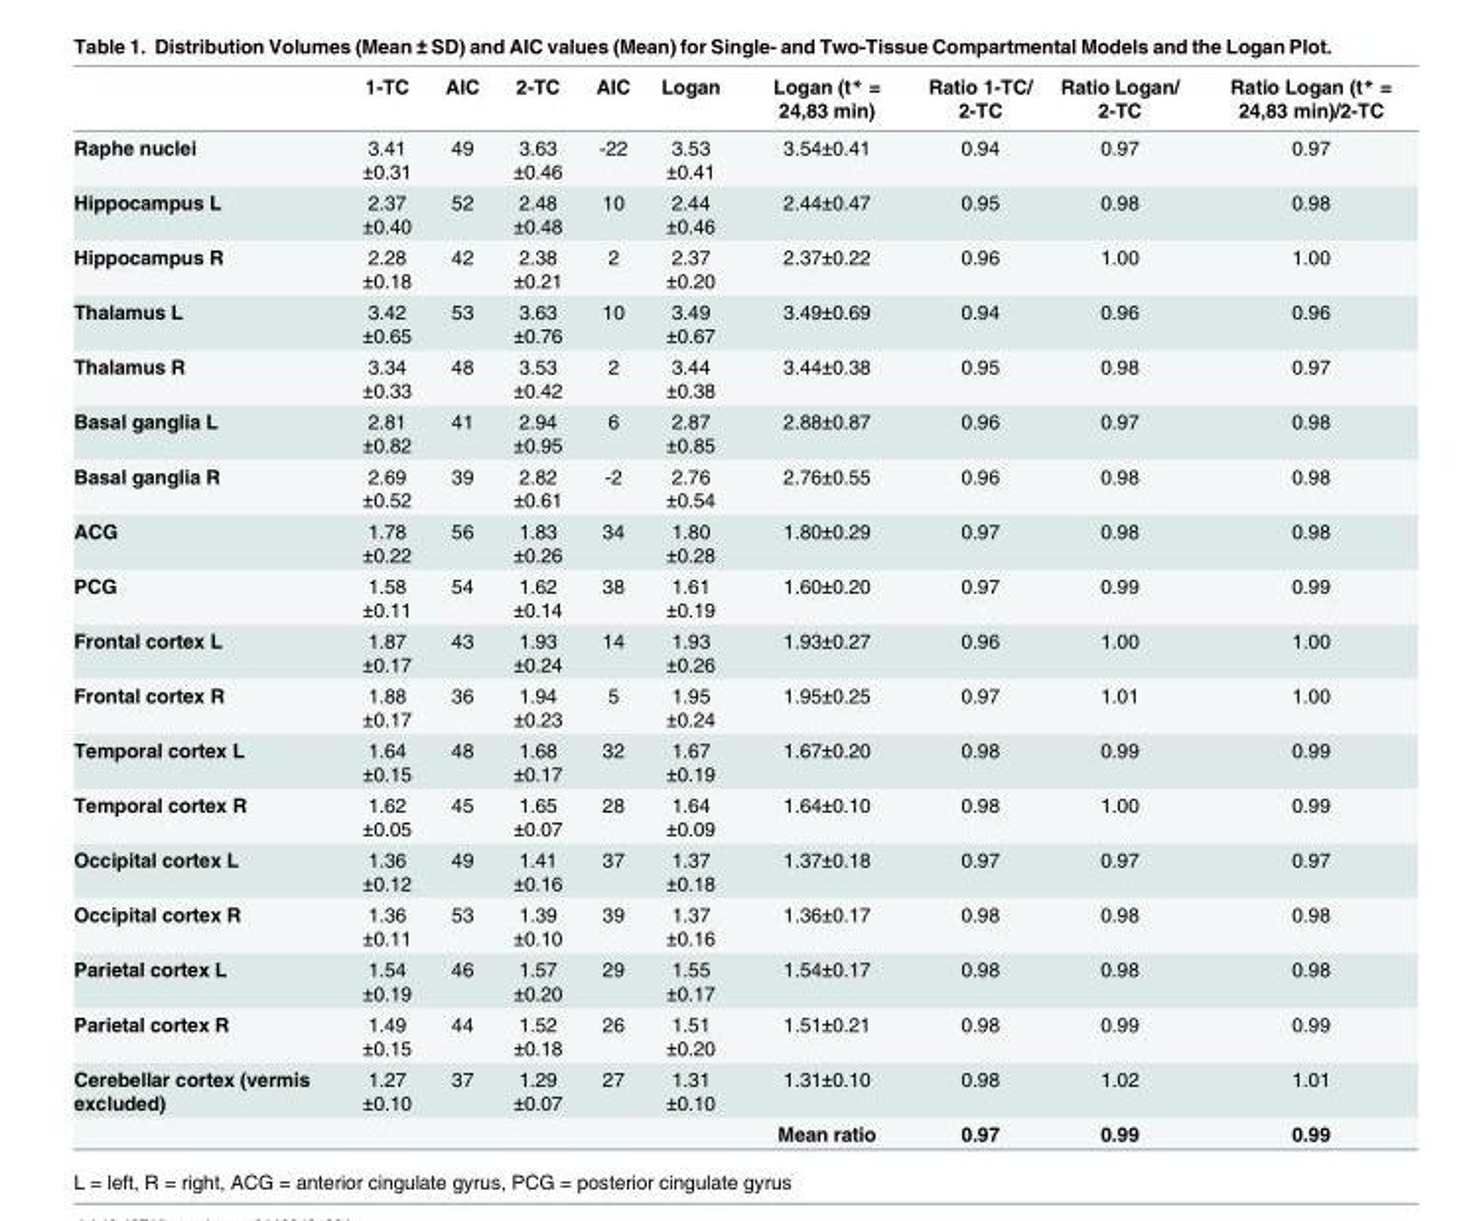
<table><thead><tr><td></td><td>1-TC</td><td>AIC</td><td>2-TC</td><td>AIC</td><td>Logan</td><td>Logan (t* = 24,83 min)</td><td>Ratio 1-TC/ 2-TC</td><td>Ratio Logan/ 2-TC</td><td>Ratio Logan (t* = 24,83 min)/2-TC</td></tr></thead><tbody><tr><td>Raphe nuclei</td><td>3.41 ±0.31</td><td>49</td><td>3.63 ±0.46</td><td>-22</td><td>3.53 ±0.41</td><td>3.54±0.41</td><td>0.94</td><td>0.97</td><td>0.97</td></tr><tr><td>Hippocampus L</td><td>2.37 ±0.40</td><td>52</td><td>2.48 ±0.48</td><td>10</td><td>2.44 ±0.46</td><td>2.44±0.47</td><td>0.95</td><td>0.98</td><td>0.98</td></tr><tr><td>Hippocampus R</td><td>2.28 ±0.18</td><td>42</td><td>2.38 ±0.21</td><td>2</td><td>2.37 ±0.20</td><td>2.37±0.22</td><td>0.96</td><td>1.00</td><td>1.00</td></tr><tr><td>Thalamus L</td><td>3.42 ±0.65</td><td>53</td><td>3.63 ±0.76</td><td>10</td><td>3.49 ±0.67</td><td>3.49±0.69</td><td>0.94</td><td>0.96</td><td>0.96</td></tr><tr><td>Thalamus R</td><td>3.34 ±0.33</td><td>48</td><td>3.53 ±0.42</td><td>2</td><td>3.44 ±0.38</td><td>3.44±0.38</td><td>0.95</td><td>0.98</td><td>0.97</td></tr><tr><td>Basal ganglia L</td><td>2.81 ±0.82</td><td>41</td><td>2.94 ±0.95</td><td>6</td><td>2.87 ±0.85</td><td>2.88±0.87</td><td>0.96</td><td>0.97</td><td>0.98</td></tr><tr><td>Basal ganglia R</td><td>2.69 ±0.52</td><td>39</td><td>2.82 ±0.61</td><td>-2</td><td>2.76 ±0.54</td><td>2.76±0.55</td><td>0.96</td><td>0.98</td><td>0.98</td></tr><tr><td>ACG</td><td>1.78 ±0.22</td><td>56</td><td>1.83 ±0.26</td><td>34</td><td>1.80 ±0.28</td><td>1.80±0.29</td><td>0.97</td><td>0.98</td><td>0.98</td></tr><tr><td>PCG</td><td>1.58 ±0.11</td><td>54</td><td>1.62 ±0.14</td><td>38</td><td>1.61 ±0.19</td><td>1.60±0.20</td><td>0.97</td><td>0.99</td><td>0.99</td></tr><tr><td>Frontal cortex L</td><td>1.87 ±0.17</td><td>43</td><td>1.93 ±0.24</td><td>14</td><td>1.93 ±0.26</td><td>1.93±0.27</td><td>0.96</td><td>1.00</td><td>1.00</td></tr><tr><td>Frontal cortex R</td><td>1.88 ±0.17</td><td>36</td><td>1.94 ±0.23</td><td>5</td><td>1.95 ±0.24</td><td>1.95±0.25</td><td>0.97</td><td>1.01</td><td>1.00</td></tr><tr><td>Temporal cortex L</td><td>1.64 ±0.15</td><td>48</td><td>1.68 ±0.17</td><td>32</td><td>1.67 ±0.19</td><td>1.67±0.20</td><td>0.98</td><td>0.99</td><td>0.99</td></tr><tr><td>Temporal cortex R</td><td>1.62 ±0.05</td><td>45</td><td>1.65 ±0.07</td><td>28</td><td>1.64 ±0.09</td><td>1.64±0.10</td><td>0.98</td><td>1.00</td><td>0.99</td></tr><tr><td>Occipital cortex L</td><td>1.36 ±0.12</td><td>49</td><td>1.41 ±0.16</td><td>37</td><td>1.37 ±0.18</td><td>1.37±0.18</td><td>0.97</td><td>0.97</td><td>0.97</td></tr><tr><td>Occipital cortex R</td><td>1.36 ±0.11</td><td>53</td><td>1.39 ±0.10</td><td>39</td><td>1.37 ±0.16</td><td>1.36±0.17</td><td>0.98</td><td>0.98</td><td>0.98</td></tr><tr><td>Parietal cortex L</td><td>1.54 ±0.19</td><td>46</td><td>1.57 ±0.20</td><td>29</td><td>1.55 ±0.17</td><td>1.54±0.17</td><td>0.98</td><td>0.98</td><td>0.98</td></tr><tr><td>Parietal cortex R</td><td>1.49 ±0.15</td><td>44</td><td>1.52 ±0.18</td><td>26</td><td>1.51 ±0.20</td><td>1.51±0.21</td><td>0.98</td><td>0.99</td><td>0.99</td></tr><tr><td rowspan="2">Cerebellar cortex (vermis excluded)</td><td>1.27 ±0.10</td><td>37</td><td>1.29 ±0.07</td><td>27</td><td>1.31 ±0.10</td><td>1.31±0.10</td><td>0.98</td><td>1.02</td><td>1.01</td></tr><tr><td></td><td></td><td></td><td></td><td></td><td>Mean ratio</td><td>0.97</td><td>0.99</td><td>0.99</td></tr></tbody></table>